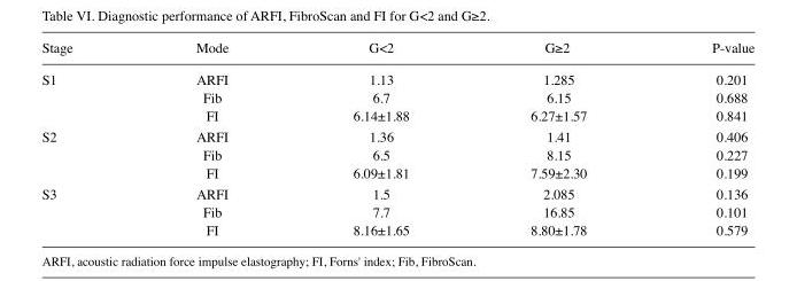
<table><thead><tr><td>Stage</td><td>Mode</td><td>G&lt;2</td><td>G≥2</td><td>P‑value</td></tr></thead><tbody><tr><td rowspan="3">S1</td><td>ARFI</td><td>1.13</td><td>1.285</td><td>0.201</td></tr><tr><td>Fib</td><td>6.7</td><td>6.15</td><td>0.688</td></tr><tr><td>FI</td><td>6.14±1.88</td><td>6.27±1.57</td><td>0.841</td></tr><tr><td rowspan="3">S2</td><td>ARFI</td><td>1.36</td><td>1.41</td><td>0.406</td></tr><tr><td>Fib</td><td>6.5</td><td>8.15</td><td>0.227</td></tr><tr><td>FI</td><td>6.09±1.81</td><td>7.59±2.30</td><td>0.199</td></tr><tr><td rowspan="3">S3</td><td>ARFI</td><td>1.5</td><td>2.085</td><td>0.136</td></tr><tr><td>Fib</td><td>7.7</td><td>16.85</td><td>0.101</td></tr><tr><td>FI</td><td>8.16±1.65</td><td>8.80±1.78</td><td>0.579</td></tr></tbody></table>